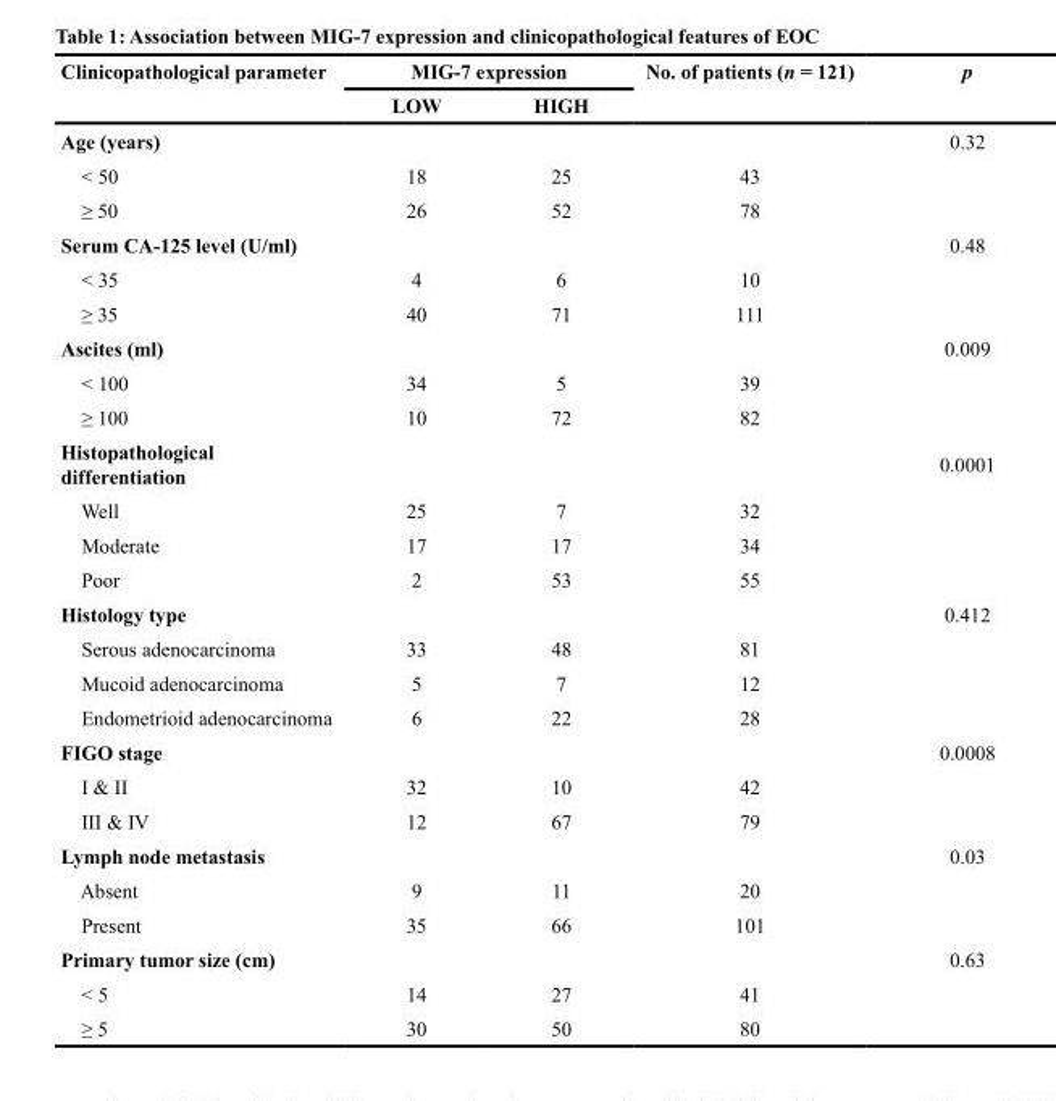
<table><thead><tr><td rowspan="2">Clinicopathological parameter</td><td colspan="2">MIG-7 expression</td><td rowspan="2">No. of patients (n = 121)</td><td rowspan="2">p</td></tr><tr><td>LOW</td><td>HIGH</td></tr></thead><tbody><tr><td>Age (years)</td><td></td><td></td><td></td><td>0.32</td></tr><tr><td>&lt; 50</td><td>18</td><td>25</td><td>43</td><td></td></tr><tr><td>≥ 50</td><td>26</td><td>52</td><td>78</td><td></td></tr><tr><td>Serum CA-125 level (U/ml)</td><td></td><td></td><td></td><td>0.48</td></tr><tr><td>&lt; 35</td><td>4</td><td>6</td><td>10</td><td></td></tr><tr><td>≥ 35</td><td>40</td><td>71</td><td>111</td><td></td></tr><tr><td>Ascites (ml)</td><td></td><td></td><td></td><td>0.009</td></tr><tr><td>&lt; 100</td><td>34</td><td>5</td><td>39</td><td></td></tr><tr><td>≥ 100</td><td>10</td><td>72</td><td>82</td><td></td></tr><tr><td>Histopathological differentiation</td><td></td><td></td><td></td><td>0.0001</td></tr><tr><td>Well</td><td>25</td><td>7</td><td>32</td><td></td></tr><tr><td>Moderate</td><td>17</td><td>17</td><td>34</td><td></td></tr><tr><td>Poor</td><td>2</td><td>53</td><td>55</td><td></td></tr><tr><td>Histology type</td><td></td><td></td><td></td><td>0.412</td></tr><tr><td>Serous adenocarcinoma</td><td>33</td><td>48</td><td>81</td><td></td></tr><tr><td>Mucoid adenocarcinoma</td><td>5</td><td>7</td><td>12</td><td></td></tr><tr><td>Endometrioid adenocarcinoma</td><td>6</td><td>22</td><td>28</td><td></td></tr><tr><td>FIGO stage</td><td></td><td></td><td></td><td>0.0008</td></tr><tr><td>I &amp; II</td><td>32</td><td>10</td><td>42</td><td></td></tr><tr><td>III &amp; IV</td><td>12</td><td>67</td><td>79</td><td></td></tr><tr><td>Lymph node metastasis</td><td></td><td></td><td></td><td>0.03</td></tr><tr><td>Absent</td><td>9</td><td>11</td><td>20</td><td></td></tr><tr><td>Present</td><td>35</td><td>66</td><td>101</td><td></td></tr><tr><td>Primary tumor size (cm)</td><td></td><td></td><td></td><td>0.63</td></tr><tr><td>&lt; 5</td><td>14</td><td>27</td><td>41</td><td></td></tr><tr><td>≥ 5</td><td>30</td><td>50</td><td>80</td><td></td></tr></tbody></table>